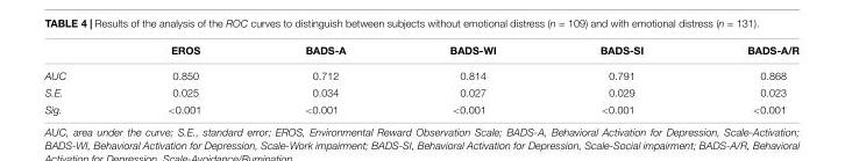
<table><thead><tr><td></td><td>EROS</td><td>BADS-A</td><td>BADS-WI</td><td>BADS-SI</td><td>BADS-A/R</td></tr></thead><tbody><tr><td>AUC</td><td>0.850</td><td>0.712</td><td>0.814</td><td>0.791</td><td>0.868</td></tr><tr><td>S.E.</td><td>0.025</td><td>0.034</td><td>0.027</td><td>0.029</td><td>0.023</td></tr><tr><td>Sig.</td><td>&lt;0.001</td><td>&lt;0.001</td><td>&lt;0.001</td><td>&lt;0.001</td><td>&lt;0.001</td></tr></tbody></table>